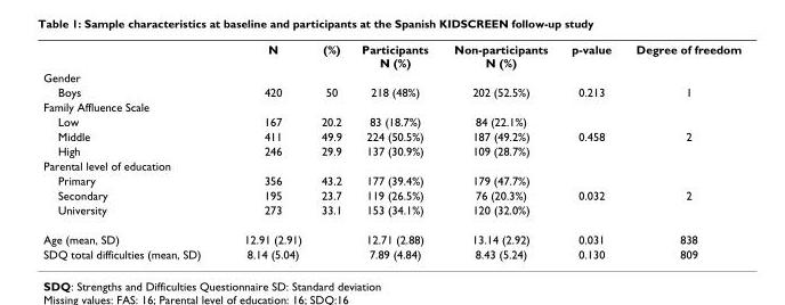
<table><thead><tr><td></td><td>N</td><td>(%)</td><td>Participants N (%)</td><td>Non-participants N (%)</td><td>p-value</td><td>Degree of freedom</td></tr></thead><tbody><tr><td colspan="7">Gender</td></tr><tr><td>Boys</td><td>420</td><td>50</td><td>218 (48%)</td><td>202 (52.5%)</td><td>0.213</td><td>1</td></tr><tr><td colspan="7">Family Affluence Scale</td></tr><tr><td>Low</td><td>167</td><td>20.2</td><td>83 (18.7%)</td><td>84 (22.1%)</td><td></td><td></td></tr><tr><td>Middle</td><td>411</td><td>49.9</td><td>224 (50.5%)</td><td>187 (49.2%)</td><td>0.458</td><td>2</td></tr><tr><td>High</td><td>246</td><td>29.9</td><td>137 (30.9%)</td><td>109 (28.7%)</td><td></td><td></td></tr><tr><td colspan="7">Parental level of education</td></tr><tr><td>Primary</td><td>356</td><td>43.2</td><td>177 (39.4%)</td><td>179 (47.7%)</td><td></td><td></td></tr><tr><td>Secondary</td><td>195</td><td>23.7</td><td>119 (26.5%)</td><td>76 (20.3%)</td><td>0.032</td><td>2</td></tr><tr><td>University</td><td>273</td><td>33.1</td><td>153 (34.1%)</td><td>120 (32.0%)</td><td></td><td></td></tr><tr><td>Age (mean, SD)</td><td>12.91 (2.91)</td><td></td><td>12.71 (2.88)</td><td>13.14 (2.92)</td><td>0.031</td><td>838</td></tr><tr><td>SDQ total difficulties (mean, SD)</td><td>8.14 (5.04)</td><td></td><td>7.89 (4.84)</td><td>8.43 (5.24)</td><td>0.130</td><td>809</td></tr></tbody></table>